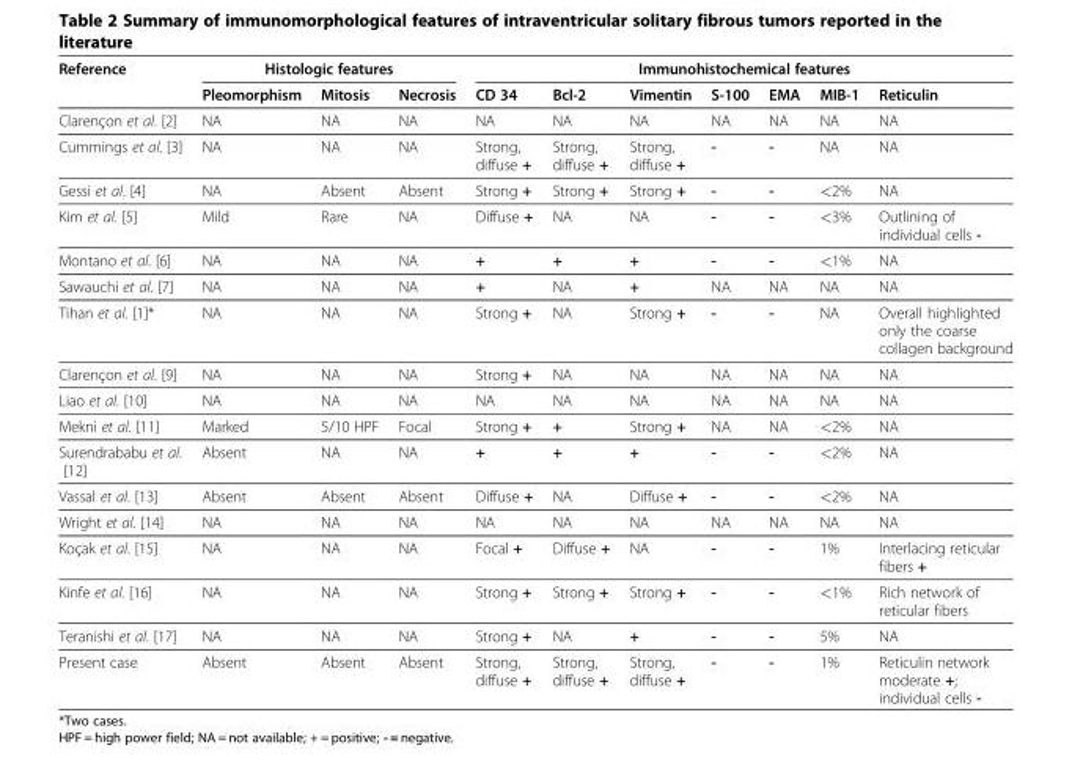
<table><thead><tr><td rowspan="2">Reference</td><td colspan="3">Histologic features</td><td colspan="7">Immunohistochemical features</td></tr><tr><td>Pleomorphism</td><td>Mitosis</td><td>Necrosis</td><td>CD 34</td><td>Bcl-2</td><td>Vimentin</td><td>S-100</td><td>EMA</td><td>MIB-1</td><td>Reticulin</td></tr></thead><tbody><tr><td>Clarençon et al. [2]</td><td>NA</td><td>NA</td><td>NA</td><td>NA</td><td>NA</td><td>NA</td><td>NA</td><td>NA</td><td>NA</td><td>NA</td></tr><tr><td>Cummings et al. [3]</td><td>NA</td><td>NA</td><td>NA</td><td>Strong, diffuse +</td><td>Strong, diffuse +</td><td>Strong, diffuse +</td><td>-</td><td>-</td><td>NA</td><td>NA</td></tr><tr><td>Gessi et al. [4]</td><td>NA</td><td>Absent</td><td>Absent</td><td>Strong +</td><td>Strong +</td><td>Strong +</td><td>-</td><td>-</td><td>&lt;2%</td><td>NA</td></tr><tr><td>Kim et al. [5]</td><td>Mild</td><td>Rare</td><td>NA</td><td>Diffuse +</td><td>NA</td><td>NA</td><td>-</td><td>-</td><td>&lt;3%</td><td>Outlining of individual cells -</td></tr><tr><td>Montano et al. [6]</td><td>NA</td><td>NA</td><td>NA</td><td>+</td><td>+</td><td>+</td><td>-</td><td>-</td><td>&lt;1%</td><td>NA</td></tr><tr><td>Sawauchi et al. [7]</td><td>NA</td><td>NA</td><td>NA</td><td>+</td><td>NA</td><td>+</td><td>NA</td><td>NA</td><td>NA</td><td>NA</td></tr><tr><td>Tihan et al. [1]*</td><td>NA</td><td>NA</td><td>NA</td><td>Strong +</td><td>NA</td><td>Strong +</td><td>-</td><td>-</td><td>NA</td><td>Overall highlighted only the coarse collagen background</td></tr><tr><td>Clarençon et al. [9]</td><td>NA</td><td>NA</td><td>NA</td><td>Strong +</td><td>NA</td><td>NA</td><td>NA</td><td>NA</td><td>NA</td><td>NA</td></tr><tr><td>Liao et al. [10]</td><td>NA</td><td>NA</td><td>NA</td><td>NA</td><td>NA</td><td>NA</td><td>NA</td><td>NA</td><td>NA</td><td>NA</td></tr><tr><td>Mekni et al. [11]</td><td>Marked</td><td>5/10 HPF</td><td>Focal</td><td>Strong +</td><td>+</td><td>Strong +</td><td>NA</td><td>NA</td><td>&lt;2%</td><td>NA</td></tr><tr><td>Surendrababu et al. [12]</td><td>Absent</td><td>NA</td><td>NA</td><td>+</td><td>+</td><td>+</td><td>-</td><td>-</td><td>&lt;2%</td><td>NA</td></tr><tr><td>Vassal et al. [13]</td><td>Absent</td><td>Absent</td><td>Absent</td><td>Diffuse +</td><td>NA</td><td>Diffuse +</td><td>-</td><td>-</td><td>&lt;2%</td><td>NA</td></tr><tr><td>Wright et al. [14]</td><td>NA</td><td>NA</td><td>NA</td><td>NA</td><td>NA</td><td>NA</td><td>NA</td><td>NA</td><td>NA</td><td>NA</td></tr><tr><td>Koçak et al. [15]</td><td>NA</td><td>NA</td><td>NA</td><td>Focal +</td><td>Diffuse +</td><td>NA</td><td>-</td><td>-</td><td>1%</td><td>Interlacing reticular fibers +</td></tr><tr><td>Kinfe et al. [16]</td><td>NA</td><td>NA</td><td>NA</td><td>Strong +</td><td>Strong +</td><td>Strong +</td><td>-</td><td>-</td><td>&lt;1%</td><td>Rich network of reticular fibers</td></tr><tr><td>Teranishi et al. [17]</td><td>NA</td><td>NA</td><td>NA</td><td>Strong +</td><td>NA</td><td>+</td><td>-</td><td>-</td><td>5%</td><td>NA</td></tr><tr><td>Present case</td><td>Absent</td><td>Absent</td><td>Absent</td><td>Strong, diffuse +</td><td>Strong, diffuse +</td><td>Strong, diffuse +</td><td>-</td><td>-</td><td>1%</td><td>Reticulin network moderate +; individual cells -</td></tr></tbody></table>